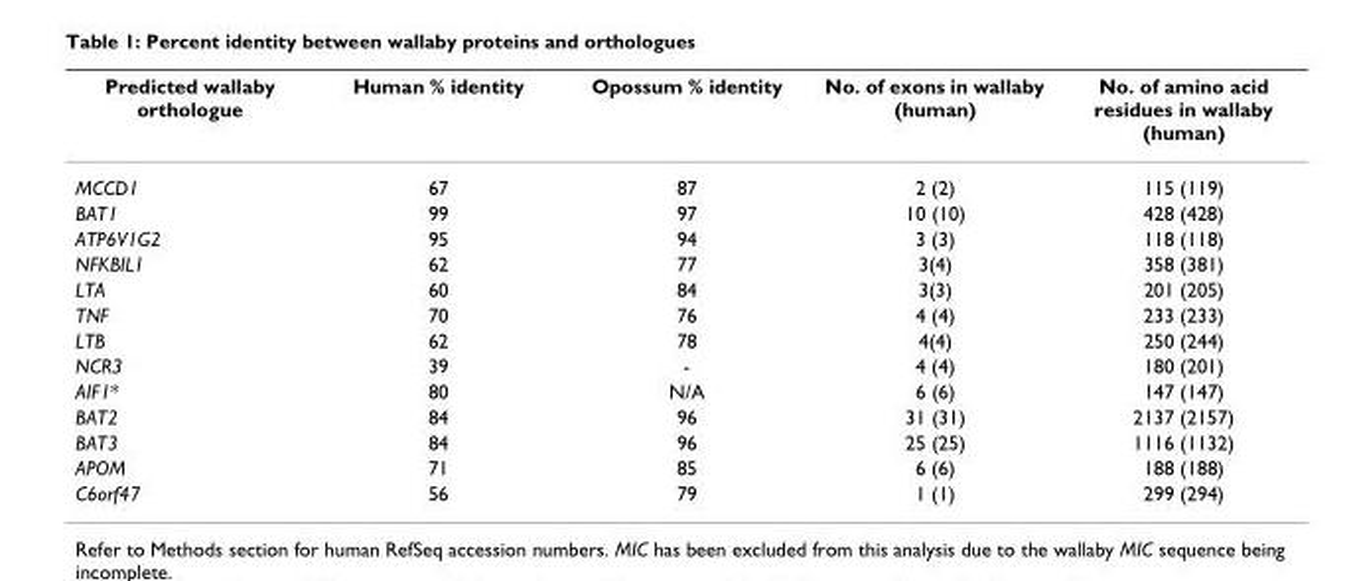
<table><thead><tr><td>Predicted wallaby orthologue</td><td>Human % identity</td><td>Opossum % identity</td><td>No. of exons in wallaby (human)</td><td>No. of amino acid residues in wallaby (human)</td></tr></thead><tbody><tr><td>MCCD1</td><td>67</td><td>87</td><td>2 (2)</td><td>115 (119)</td></tr><tr><td>BAT1</td><td>99</td><td>97</td><td>10 (10)</td><td>428 (428)</td></tr><tr><td>ATP6V1G2</td><td>95</td><td>94</td><td>3 (3)</td><td>118 (118)</td></tr><tr><td>NFKBIL1</td><td>62</td><td>77</td><td>3(4)</td><td>358 (381)</td></tr><tr><td>LTA</td><td>60</td><td>84</td><td>3(3)</td><td>201 (205)</td></tr><tr><td>TNF</td><td>70</td><td>76</td><td>4 (4)</td><td>233 (233)</td></tr><tr><td>LTB</td><td>62</td><td>78</td><td>4(4)</td><td>250 (244)</td></tr><tr><td>NCR3</td><td>39</td><td>-</td><td>4 (4)</td><td>180 (201)</td></tr><tr><td>AIF1*</td><td>80</td><td>N/A</td><td>6 (6)</td><td>147 (147)</td></tr><tr><td>BAT2</td><td>84</td><td>96</td><td>31 (31)</td><td>2137 (2157)</td></tr><tr><td>BAT3</td><td>84</td><td>96</td><td>25 (25)</td><td>1116 (1132)</td></tr><tr><td>APOM</td><td>71</td><td>85</td><td>6 (6)</td><td>188 (188)</td></tr><tr><td>C6orf47</td><td>56</td><td>79</td><td>1 (1)</td><td>299 (294)</td></tr></tbody></table>